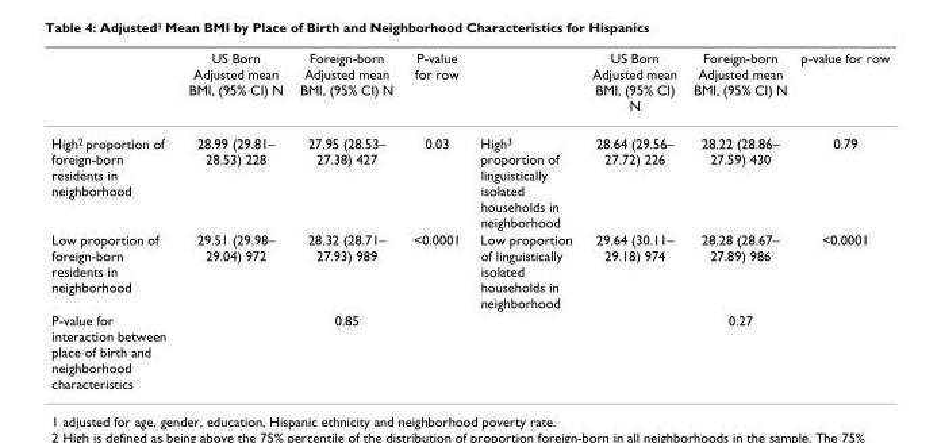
<table><thead><tr><td></td><td>US Born Adjusted mean BMI, (95% CI) N</td><td>Foreign-born Adjusted mean BMI, (95% CI) N</td><td>P-value for row</td><td></td><td>US Born Adjusted mean BMI, (95% CI) N</td><td>Foreign-born Adjusted mean BMI, (95% CI) N</td><td>p-value for row</td></tr></thead><tbody><tr><td>High<sup>2</sup> proportion of foreign-born residents in neighborhood</td><td>28.99 (29.81– 28.53) 228</td><td>27.95 (28.53– 27.38) 427</td><td>0.03</td><td>High<sup>3</sup> proportion of linguistically isolated households in neighborhood</td><td>28.64 (29.56– 27.72) 226</td><td>28.22 (28.86– 27.59) 430</td><td>0.79</td></tr><tr><td>Low proportion of foreign-born residents in neighborhood</td><td>29.51 (29.98– 29.04) 972</td><td>28.32 (28.71– 27.93) 989</td><td>&lt;0.0001</td><td>Low proportion of linguistically isolated households in neighborhood</td><td>29.64 (30.11– 29.18) 974</td><td>28.28 (28.67– 27.89) 986</td><td>&lt;0.0001</td></tr><tr><td>P-value for interaction between place of birth and neighborhood characteristics</td><td></td><td>0.85</td><td></td><td></td><td></td><td>0.27</td><td></td></tr></tbody></table>